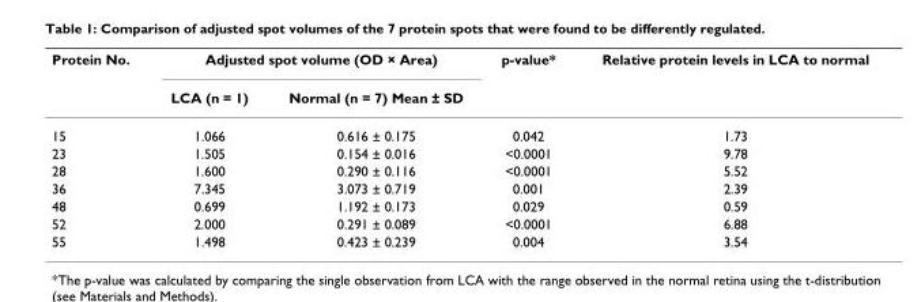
<table><thead><tr><td rowspan="2">Protein No.</td><td colspan="2">Adjusted spot volume (OD × Area)</td><td rowspan="2">p-value*</td><td rowspan="2">Relative protein levels in LCA to normal</td></tr><tr><td>LCA (n = 1)</td><td>Normal (n = 7) Mean ± SD</td></tr></thead><tbody><tr><td>15</td><td>1.066</td><td>0.616 ± 0.175</td><td>0.042</td><td>1.73</td></tr><tr><td>23</td><td>1.505</td><td>0.154 ± 0.016</td><td>&lt;0.0001</td><td>9.78</td></tr><tr><td>28</td><td>1.600</td><td>0.290 ± 0.116</td><td>&lt;0.0001</td><td>5.52</td></tr><tr><td>36</td><td>7.345</td><td>3.073 ± 0.719</td><td>0.001</td><td>2.39</td></tr><tr><td>48</td><td>0.699</td><td>1.192 ± 0.173</td><td>0.029</td><td>0.59</td></tr><tr><td>52</td><td>2.000</td><td>0.291 ± 0.089</td><td>&lt;0.0001</td><td>6.88</td></tr><tr><td>55</td><td>1.498</td><td>0.423 ± 0.239</td><td>0.004</td><td>3.54</td></tr></tbody></table>